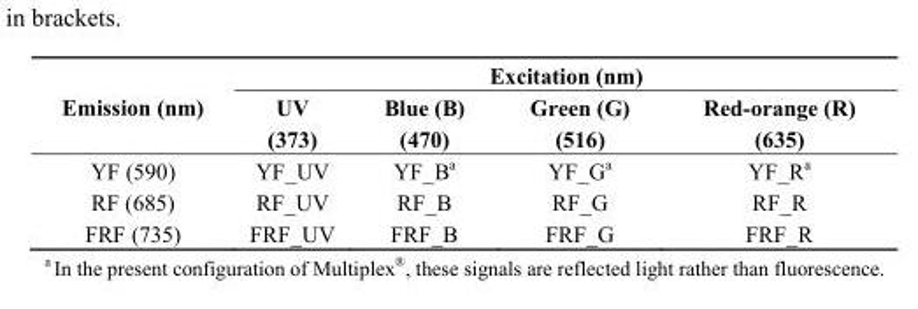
<table><thead><tr><td rowspan="2">Emission (nm)</td><td colspan="4">Excitation (nm)</td></tr><tr><td>UV (373)</td><td>Blue (B) (470)</td><td>Green (G) (516)</td><td>Red-orange (R) (635)</td></tr></thead><tbody><tr><td>YF (590)</td><td>YF_UV</td><td>YF_B<sup>a</sup></td><td>YF_G<sup>a</sup></td><td>YF_R<sup>a</sup></td></tr><tr><td>RF (685)</td><td>RF_UV</td><td>RF_B</td><td>RF_G</td><td>RF_R</td></tr><tr><td>FRF (735)</td><td>FRF_UV</td><td>FRF_B</td><td>FRF_G</td><td>FRF_R</td></tr></tbody></table>